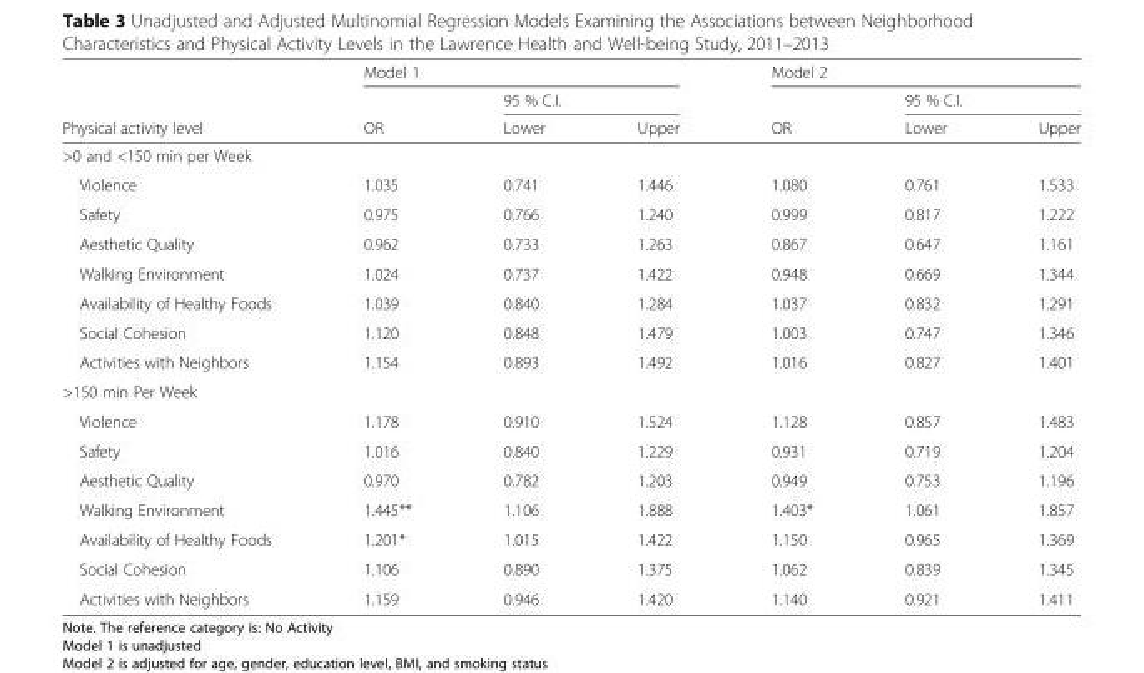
<table><thead><tr><td rowspan="3">Physical activity level</td><td colspan="3">Model 1</td><td colspan="3">Model 2</td></tr><tr><td rowspan="2">OR</td><td colspan="2">95 % C.I.</td><td rowspan="2">OR</td><td colspan="2">95 % C.I.</td></tr><tr><td>Lower</td><td>Upper</td><td>Lower</td><td>Upper</td></tr></thead><tbody><tr><td colspan="7">&gt;0 and &lt;150 min per Week</td></tr><tr><td>Violence</td><td>1.035</td><td>0.741</td><td>1.446</td><td>1.080</td><td>0.761</td><td>1.533</td></tr><tr><td>Safety</td><td>0.975</td><td>0.766</td><td>1.240</td><td>0.999</td><td>0.817</td><td>1.222</td></tr><tr><td>Aesthetic Quality</td><td>0.962</td><td>0.733</td><td>1.263</td><td>0.867</td><td>0.647</td><td>1.161</td></tr><tr><td>Walking Environment</td><td>1.024</td><td>0.737</td><td>1.422</td><td>0.948</td><td>0.669</td><td>1.344</td></tr><tr><td>Availability of Healthy Foods</td><td>1.039</td><td>0.840</td><td>1.284</td><td>1.037</td><td>0.832</td><td>1.291</td></tr><tr><td>Social Cohesion</td><td>1.120</td><td>0.848</td><td>1.479</td><td>1.003</td><td>0.747</td><td>1.346</td></tr><tr><td>Activities with Neighbors</td><td>1.154</td><td>0.893</td><td>1.492</td><td>1.016</td><td>0.827</td><td>1.401</td></tr><tr><td colspan="7">&gt;150 min Per Week</td></tr><tr><td>Violence</td><td>1.178</td><td>0.910</td><td>1.524</td><td>1.128</td><td>0.857</td><td>1.483</td></tr><tr><td>Safety</td><td>1.016</td><td>0.840</td><td>1.229</td><td>0.931</td><td>0.719</td><td>1.204</td></tr><tr><td>Aesthetic Quality</td><td>0.970</td><td>0.782</td><td>1.203</td><td>0.949</td><td>0.753</td><td>1.196</td></tr><tr><td>Walking Environment</td><td>1.445**</td><td>1.106</td><td>1.888</td><td>1.403*</td><td>1.061</td><td>1.857</td></tr><tr><td>Availability of Healthy Foods</td><td>1.201*</td><td>1.015</td><td>1.422</td><td>1.150</td><td>0.965</td><td>1.369</td></tr><tr><td>Social Cohesion</td><td>1.106</td><td>0.890</td><td>1.375</td><td>1.062</td><td>0.839</td><td>1.345</td></tr><tr><td>Activities with Neighbors</td><td>1.159</td><td>0.946</td><td>1.420</td><td>1.140</td><td>0.921</td><td>1.411</td></tr></tbody></table>